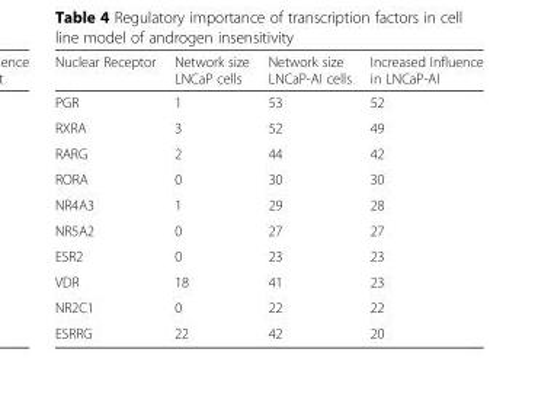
<table><thead><tr><td>Nuclear Receptor</td><td>Network size LNCaP cells</td><td>Network size LNCaP-AI cells</td><td>Increased Influence in LNCaP-AI</td></tr></thead><tbody><tr><td>PGR</td><td>1</td><td>53</td><td>52</td></tr><tr><td>RXRA</td><td>3</td><td>52</td><td>49</td></tr><tr><td>RARG</td><td>2</td><td>44</td><td>42</td></tr><tr><td>RORA</td><td>0</td><td>30</td><td>30</td></tr><tr><td>NR4A3</td><td>1</td><td>29</td><td>28</td></tr><tr><td>NR5A2</td><td>0</td><td>27</td><td>27</td></tr><tr><td>ESR2</td><td>0</td><td>23</td><td>23</td></tr><tr><td>VDR</td><td>18</td><td>41</td><td>23</td></tr><tr><td>NR2C1</td><td>0</td><td>22</td><td>22</td></tr><tr><td>ESRRG</td><td>22</td><td>42</td><td>20</td></tr></tbody></table>